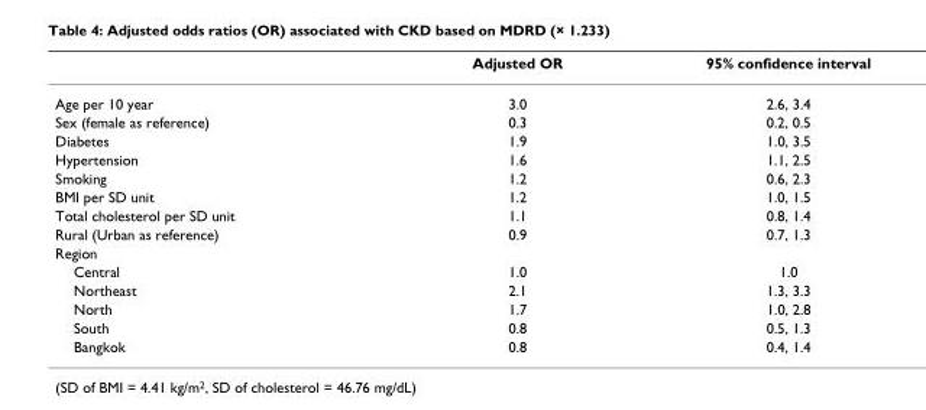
<table><thead><tr><td></td><td>Adjusted OR</td><td>95% confidence interval</td></tr></thead><tbody><tr><td>Age per 10 year</td><td>3.0</td><td>2.6, 3.4</td></tr><tr><td>Sex (female as reference)</td><td>0.3</td><td>0.2, 0.5</td></tr><tr><td>Diabetes</td><td>1.9</td><td>1.0, 3.5</td></tr><tr><td>Hypertension</td><td>1.6</td><td>1.1, 2.5</td></tr><tr><td>Smoking</td><td>1.2</td><td>0.6, 2.3</td></tr><tr><td>BMI per SD unit</td><td>1.2</td><td>1.0, 1.5</td></tr><tr><td>Total cholesterol per SD unit</td><td>1.1</td><td>0.8, 1.4</td></tr><tr><td>Rural (Urban as reference)</td><td>0.9</td><td>0.7, 1.3</td></tr><tr><td colspan="3">Region</td></tr><tr><td>Central</td><td>1.0</td><td>1.0</td></tr><tr><td>Northeast</td><td>2.1</td><td>1.3, 3.3</td></tr><tr><td>North</td><td>1.7</td><td>1.0, 2.8</td></tr><tr><td>South</td><td>0.8</td><td>0.5, 1.3</td></tr><tr><td>Bangkok</td><td>0.8</td><td>0.4, 1.4</td></tr></tbody></table>